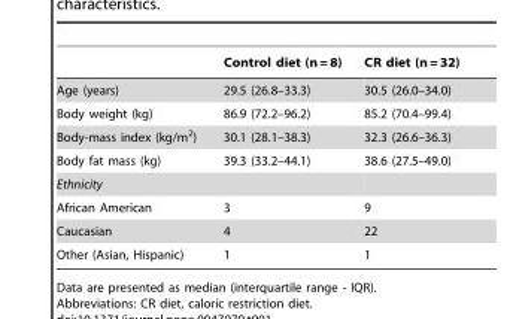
<table><thead><tr><td></td><td>Control diet (n = 8)</td><td>CR diet (n = 32)</td></tr></thead><tbody><tr><td>Age (years)</td><td>29.5 (26.8–33.3)</td><td>30.5 (26.0–34.0)</td></tr><tr><td>Body weight (kg)</td><td>86.9 (72.2–96.2)</td><td>85.2 (70.4–99.4)</td></tr><tr><td>Body-mass index (kg/m<sup>2</sup>)</td><td>30.1 (28.1–38.3)</td><td>32.3 (26.6–36.3)</td></tr><tr><td>Body fat mass (kg)</td><td>39.3 (33.2–44.1)</td><td>38.6 (27.5–49.0)</td></tr><tr><td colspan="3">Ethnicity</td></tr><tr><td>African American</td><td>3</td><td>9</td></tr><tr><td>Caucasian</td><td>4</td><td>22</td></tr><tr><td>Other (Asian, Hispanic)</td><td>1</td><td>1</td></tr></tbody></table>